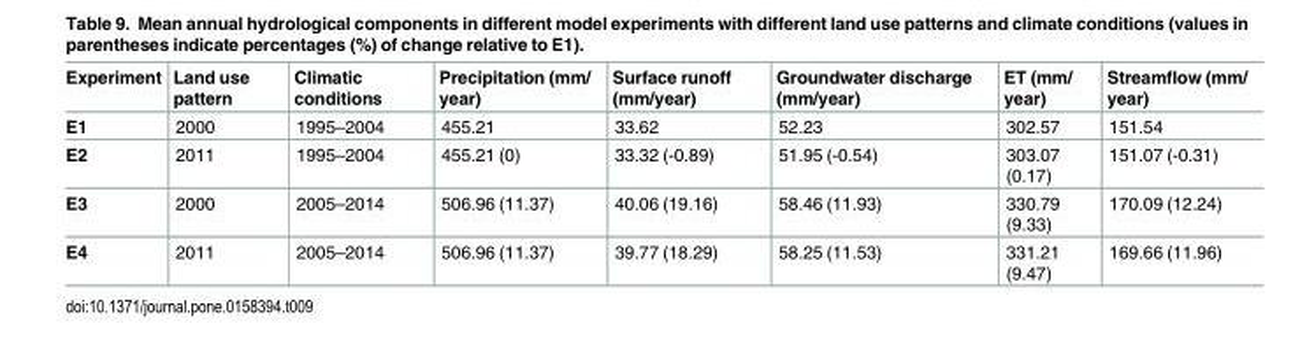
<table><thead><tr><td>Experiment</td><td>Land use pattern</td><td>Climatic conditions</td><td>Precipitation (mm/ year)</td><td>Surface runoff (mm/year)</td><td>Groundwater discharge (mm/year)</td><td>ET (mm/ year)</td><td>Streamflow (mm/ year)</td></tr></thead><tbody><tr><td>E1</td><td>2000</td><td>1995–2004</td><td>455.21</td><td>33.62</td><td>52.23</td><td>302.57</td><td>151.54</td></tr><tr><td>E2</td><td>2011</td><td>1995–2004</td><td>455.21 (0)</td><td>33.32 (-0.89)</td><td>51.95 (-0.54)</td><td>303.07 (0.17)</td><td>151.07 (-0.31)</td></tr><tr><td>E3</td><td>2000</td><td>2005–2014</td><td>506.96 (11.37)</td><td>40.06 (19.16)</td><td>58.46 (11.93)</td><td>330.79 (9.33)</td><td>170.09 (12.24)</td></tr><tr><td>E4</td><td>2011</td><td>2005–2014</td><td>506.96 (11.37)</td><td>39.77 (18.29)</td><td>58.25 (11.53)</td><td>331.21 (9.47)</td><td>169.66 (11.96)</td></tr></tbody></table>